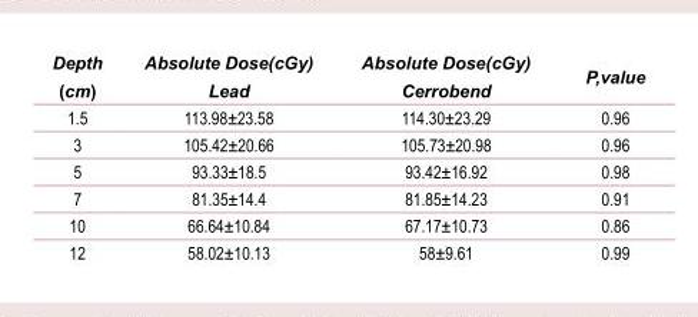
<table><thead><tr><td>Depth (cm)</td><td>Absolute Dose(cGy) Lead</td><td>Absolute Dose(cGy) Cerrobend</td><td>P,value</td></tr></thead><tbody><tr><td>1.5</td><td>113.98±23.58</td><td>114.30±23.29</td><td>0.96</td></tr><tr><td>3</td><td>105.42±20.66</td><td>105.73±20.98</td><td>0.96</td></tr><tr><td>5</td><td>93.33±18.5</td><td>93.42±16.92</td><td>0.98</td></tr><tr><td>7</td><td>81.35±14.4</td><td>81.85±14.23</td><td>0.91</td></tr><tr><td>10</td><td>66.64±10.84</td><td>67.17±10.73</td><td>0.86</td></tr><tr><td>12</td><td>58.02±10.13</td><td>58±9.61</td><td>0.99</td></tr></tbody></table>